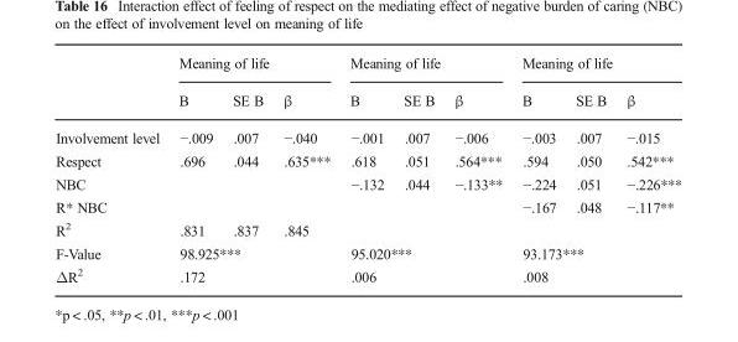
<table><thead><tr><td rowspan="2"></td><td colspan="3">Meaning of life</td><td colspan="3">Meaning of life</td><td colspan="3">Meaning of life</td></tr><tr><td>B</td><td>SE B</td><td>β</td><td>B</td><td>SE B</td><td>β</td><td>B</td><td>SE B</td><td>β</td></tr></thead><tbody><tr><td>Involvement level</td><td>−.009</td><td>.007</td><td>−.040</td><td>−.001</td><td>.007</td><td>−.006</td><td>−.003</td><td>.007</td><td>−.015</td></tr><tr><td>Respect</td><td>.696</td><td>.044</td><td>.635***</td><td>.618</td><td>.051</td><td>.564***</td><td>.594</td><td>.050</td><td>.542***</td></tr><tr><td>NBC</td><td></td><td></td><td></td><td>−.132</td><td>.044</td><td>−.133**</td><td>−.224</td><td>.051</td><td>−.226***</td></tr><tr><td>R* NBC</td><td></td><td></td><td></td><td></td><td></td><td></td><td>−.167</td><td>.048</td><td>−.117**</td></tr><tr><td>R<sup>2</sup></td><td>.831</td><td>.837</td><td>.845</td><td></td><td></td><td></td><td></td><td></td><td></td></tr><tr><td>F-Value</td><td colspan="3">98.925***</td><td colspan="3">95.020***</td><td colspan="3">93.173***</td></tr><tr><td>ΔR<sup>2</sup></td><td colspan="3">.172</td><td colspan="3">.006</td><td colspan="3">.008</td></tr></tbody></table>